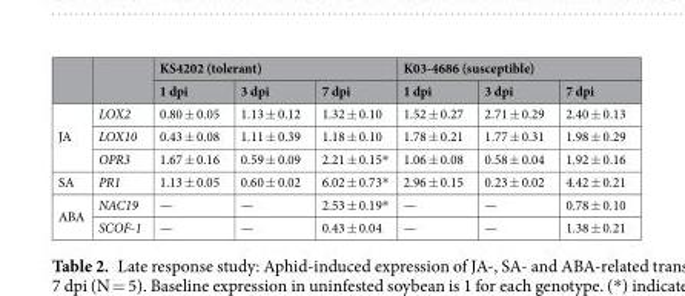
<table><thead><tr><td rowspan="2"></td><td rowspan="2"></td><td colspan="3">KS4202 (tolerant)</td><td colspan="3">K03-4686 (susceptible)</td></tr><tr><td>1 dpi</td><td>3 dpi</td><td>7 dpi</td><td>1 dpi</td><td>3 dpi</td><td>7 dpi</td></tr></thead><tbody><tr><td rowspan="3">JA</td><td>LOX2</td><td>0.80 ± 0.05</td><td>1.13 ± 0.12</td><td>1.32 ± 0.10</td><td>1.52 ± 0.27</td><td>2.71 ± 0.29</td><td>2.40 ± 0.13</td></tr><tr><td>LOX10</td><td>0.43 ± 0.08</td><td>1.11 ± 0.39</td><td>1.18 ± 0.10</td><td>1.78 ± 0.21</td><td>1.77 ± 0.31</td><td>1.98 ± 0.29</td></tr><tr><td>OPR3</td><td>1.67 ± 0.16</td><td>0.59 ± 0.09</td><td>2.21 ± 0.15*</td><td>1.06 ± 0.08</td><td>0.58 ± 0.04</td><td>1.92 ± 0.16</td></tr><tr><td>SA</td><td>PR1</td><td>1.13 ± 0.05</td><td>0.60 ± 0.02</td><td>6.02 ± 0.73*</td><td>2.96 ± 0.15</td><td>0.23 ± 0.02</td><td>4.42 ± 0.21</td></tr><tr><td rowspan="2">ABA</td><td>NAC19</td><td>—</td><td>—</td><td>2.53 ± 0.19*</td><td>—</td><td>—</td><td>0.78 ± 0.10</td></tr><tr><td>SCOF-1</td><td>—</td><td>—</td><td>0.43 ± 0.04</td><td>—</td><td>—</td><td>1.38 ± 0.21</td></tr></tbody></table>